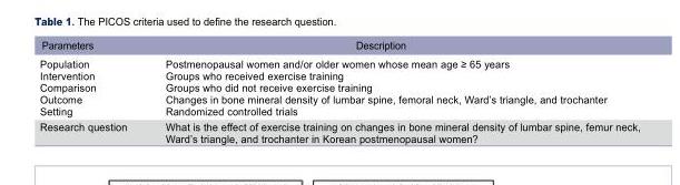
<table><thead><tr><td>Parameters</td><td>Description</td></tr></thead><tbody><tr><td>Population</td><td>Postmenopausal women and/or older women whose mean age ≥ 65 years</td></tr><tr><td>Intervention</td><td>Groups who received exercise training</td></tr><tr><td>Comparison</td><td>Groups who did not receive exercise training</td></tr><tr><td>Outcome</td><td>Changes in bone mineral density of lumbar spine, femoral neck, Ward’s triangle, and trochanter</td></tr><tr><td>Setting</td><td>Randomized controlled trials</td></tr><tr><td>Research question</td><td>What is the effect of exercise training on changes in bone mineral density of lumbar spine, femur neck, Ward’s triangle, and trochanter in Korean postmenopausal women?</td></tr></tbody></table>